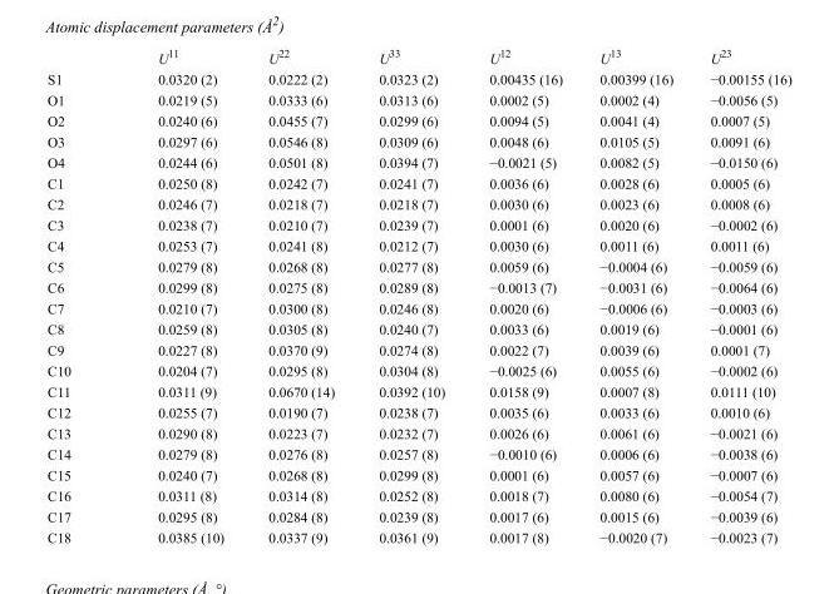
<table><thead><tr><td></td><td>U<sup>11</sup></td><td>U<sup>22</sup></td><td>U<sup>33</sup></td><td>U<sup>12</sup></td><td>U<sup>13</sup></td><td>U<sup>23</sup></td></tr></thead><tbody><tr><td>S1</td><td>0.0320 (2)</td><td>0.0222 (2)</td><td>0.0323 (2)</td><td>0.00435 (16)</td><td>0.00399 (16)</td><td>−0.00155 (16)</td></tr><tr><td>O1</td><td>0.0219 (5)</td><td>0.0333 (6)</td><td>0.0313 (6)</td><td>0.0002 (5)</td><td>0.0002 (4)</td><td>−0.0056 (5)</td></tr><tr><td>O2</td><td>0.0240 (6)</td><td>0.0455 (7)</td><td>0.0299 (6)</td><td>0.0094 (5)</td><td>0.0041 (4)</td><td>0.0007 (5)</td></tr><tr><td>O3</td><td>0.0297 (6)</td><td>0.0546 (8)</td><td>0.0309 (6)</td><td>0.0048 (6)</td><td>0.0105 (5)</td><td>0.0091 (6)</td></tr><tr><td>O4</td><td>0.0244 (6)</td><td>0.0501 (8)</td><td>0.0394 (7)</td><td>−0.0021 (5)</td><td>0.0082 (5)</td><td>−0.0150 (6)</td></tr><tr><td>C1</td><td>0.0250 (8)</td><td>0.0242 (7)</td><td>0.0241 (7)</td><td>0.0036 (6)</td><td>0.0028 (6)</td><td>0.0005 (6)</td></tr><tr><td>C2</td><td>0.0246 (7)</td><td>0.0218 (7)</td><td>0.0218 (7)</td><td>0.0030 (6)</td><td>0.0023 (6)</td><td>0.0008 (6)</td></tr><tr><td>C3</td><td>0.0238 (7)</td><td>0.0210 (7)</td><td>0.0239 (7)</td><td>0.0001 (6)</td><td>0.0020 (6)</td><td>−0.0002 (6)</td></tr><tr><td>C4</td><td>0.0253 (7)</td><td>0.0241 (8)</td><td>0.0212 (7)</td><td>0.0030 (6)</td><td>0.0011 (6)</td><td>0.0011 (6)</td></tr><tr><td>C5</td><td>0.0279 (8)</td><td>0.0268 (8)</td><td>0.0277 (8)</td><td>0.0059 (6)</td><td>−0.0004 (6)</td><td>−0.0059 (6)</td></tr><tr><td>C6</td><td>0.0299 (8)</td><td>0.0275 (8)</td><td>0.0289 (8)</td><td>−0.0013 (7)</td><td>−0.0031 (6)</td><td>−0.0064 (6)</td></tr><tr><td>C7</td><td>0.0210 (7)</td><td>0.0300 (8)</td><td>0.0246 (8)</td><td>0.0020 (6)</td><td>−0.0006 (6)</td><td>−0.0003 (6)</td></tr><tr><td>C8</td><td>0.0259 (8)</td><td>0.0305 (8)</td><td>0.0240 (7)</td><td>0.0033 (6)</td><td>0.0019 (6)</td><td>−0.0001 (6)</td></tr><tr><td>C9</td><td>0.0227 (8)</td><td>0.0370 (9)</td><td>0.0274 (8)</td><td>0.0022 (7)</td><td>0.0039 (6)</td><td>0.0001 (7)</td></tr><tr><td>C10</td><td>0.0204 (7)</td><td>0.0295 (8)</td><td>0.0304 (8)</td><td>−0.0025 (6)</td><td>0.0055 (6)</td><td>−0.0002 (6)</td></tr><tr><td>C11</td><td>0.0311 (9)</td><td>0.0670 (14)</td><td>0.0392 (10)</td><td>0.0158 (9)</td><td>0.0007 (8)</td><td>0.0111 (10)</td></tr><tr><td>C12</td><td>0.0255 (7)</td><td>0.0190 (7)</td><td>0.0238 (7)</td><td>0.0035 (6)</td><td>0.0033 (6)</td><td>0.0010 (6)</td></tr><tr><td>C13</td><td>0.0290 (8)</td><td>0.0223 (7)</td><td>0.0232 (7)</td><td>0.0026 (6)</td><td>0.0061 (6)</td><td>−0.0021 (6)</td></tr><tr><td>C14</td><td>0.0279 (8)</td><td>0.0276 (8)</td><td>0.0257 (8)</td><td>−0.0010 (6)</td><td>0.0006 (6)</td><td>−0.0038 (6)</td></tr><tr><td>C15</td><td>0.0240 (7)</td><td>0.0268 (8)</td><td>0.0299 (8)</td><td>0.0001 (6)</td><td>0.0057 (6)</td><td>−0.0007 (6)</td></tr><tr><td>C16</td><td>0.0311 (8)</td><td>0.0314 (8)</td><td>0.0252 (8)</td><td>0.0018 (7)</td><td>0.0080 (6)</td><td>−0.0054 (7)</td></tr><tr><td>C17</td><td>0.0295 (8)</td><td>0.0284 (8)</td><td>0.0239 (8)</td><td>0.0017 (6)</td><td>0.0015 (6)</td><td>−0.0039 (6)</td></tr><tr><td>C18</td><td>0.0385 (10)</td><td>0.0337 (9)</td><td>0.0361 (9)</td><td>0.0017 (8)</td><td>−0.0020 (7)</td><td>−0.0023 (7)</td></tr></tbody></table>